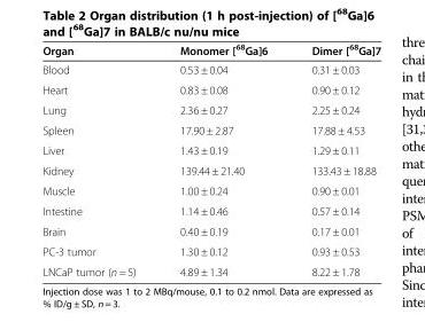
<table><thead><tr><td>Organ</td><td>Monomer [<sup>68</sup>Ga]6</td><td>Dimer [<sup>68</sup>Ga]7</td></tr></thead><tbody><tr><td>Blood</td><td>0.53 ± 0.04</td><td>0.31 ± 0.03</td></tr><tr><td>Heart</td><td>0.83 ± 0.08</td><td>0.90 ± 0.12</td></tr><tr><td>Lung</td><td>2.36 ± 0.27</td><td>2.25 ± 0.24</td></tr><tr><td>Spleen</td><td>17.90 ± 2.87</td><td>17.88 ± 4.53</td></tr><tr><td>Liver</td><td>1.43 ± 0.19</td><td>1.29 ± 0.11</td></tr><tr><td>Kidney</td><td>139.44 ± 21.40</td><td>133.43 ± 18.88</td></tr><tr><td>Muscle</td><td>1.00 ± 0.24</td><td>0.90 ± 0.01</td></tr><tr><td>Intestine</td><td>1.14 ± 0.46</td><td>0.57 ± 0.14</td></tr><tr><td>Brain</td><td>0.40 ± 0.19</td><td>0.17 ± 0.01</td></tr><tr><td>PC-3 tumor</td><td>1.30 ± 0.12</td><td>0.93 ± 0.53</td></tr><tr><td>LNCaP tumor (n = 5)</td><td>4.89 ± 1.34</td><td>8.22 ± 1.78</td></tr></tbody></table>